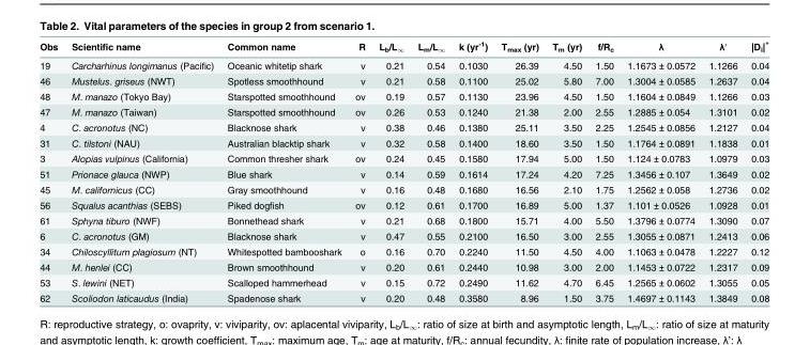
<table><thead><tr><td>Obs</td><td>Scientific name</td><td>Common name</td><td>R</td><td>L<sub>b</sub>/L<sub>∞</sub></td><td>L<sub>m</sub>/L<sub>∞</sub></td><td>k (yr<sup>-1</sup>)</td><td>T<sub>max</sub> (yr)</td><td>T<sub>m</sub> (yr)</td><td>f/R<sub>c</sub></td><td>λ</td><td>λ′</td><td>|D<sub>i</sub>|*</td></tr></thead><tbody><tr><td>19</td><td>Carcharhinus longimanus (Pacific)</td><td>Oceanic whitetip shark</td><td>v</td><td>0.21</td><td>0.54</td><td>0.1030</td><td>26.39</td><td>4.50</td><td>1.50</td><td>1.1673 ± 0.0572</td><td>1.1266</td><td>0.04</td></tr><tr><td>46</td><td>Mustelus. griseus (NWT)</td><td>Spotless smoothhound</td><td>v</td><td>0.21</td><td>0.58</td><td>0.1100</td><td>25.02</td><td>5.80</td><td>7.00</td><td>1.3004 ± 0.0585</td><td>1.2637</td><td>0.04</td></tr><tr><td>48</td><td>M. manazo (Tokyo Bay)</td><td>Starspotted smoothhound</td><td>ov</td><td>0.19</td><td>0.57</td><td>0.1130</td><td>23.96</td><td>4.50</td><td>1.50</td><td>1.1604 ± 0.0849</td><td>1.1266</td><td>0.03</td></tr><tr><td>47</td><td>M. manazo (Taiwan)</td><td>Starspotted smoothhound</td><td>ov</td><td>0.26</td><td>0.53</td><td>0.1240</td><td>21.38</td><td>2.00</td><td>2.55</td><td>1.2885 ± 0.054</td><td>1.3101</td><td>0.02</td></tr><tr><td>4</td><td>C. acronotus (NC)</td><td>Blacknose shark</td><td>v</td><td>0.38</td><td>0.46</td><td>0.1380</td><td>25.11</td><td>3.50</td><td>2.25</td><td>1.2545 ± 0.0856</td><td>1.2127</td><td>0.04</td></tr><tr><td>31</td><td>C. tilstoni (NAU)</td><td>Australian blacktip shark</td><td>v</td><td>0.32</td><td>0.58</td><td>0.1400</td><td>18.60</td><td>3.50</td><td>1.50</td><td>1.1764 ± 0.0891</td><td>1.1838</td><td>0.01</td></tr><tr><td>3</td><td>Alopias vulpinus (California)</td><td>Common thresher shark</td><td>ov</td><td>0.24</td><td>0.45</td><td>0.1580</td><td>17.94</td><td>5.00</td><td>1.50</td><td>1.124 ± 0.0783</td><td>1.0979</td><td>0.03</td></tr><tr><td>51</td><td>Prionace glauca (NWP)</td><td>Blue shark</td><td>v</td><td>0.14</td><td>0.59</td><td>0.1614</td><td>17.24</td><td>4.20</td><td>7.25</td><td>1.3456 ± 0.107</td><td>1.3649</td><td>0.02</td></tr><tr><td>45</td><td>M. californicus (CC)</td><td>Gray smoothhound</td><td>v</td><td>0.16</td><td>0.48</td><td>0.1680</td><td>16.56</td><td>2.10</td><td>1.75</td><td>1.2562 ± 0.058</td><td>1.2736</td><td>0.02</td></tr><tr><td>56</td><td>Squalus acanthias (SEBS)</td><td>Piked dogfish</td><td>ov</td><td>0.12</td><td>0.61</td><td>0.1700</td><td>16.89</td><td>5.00</td><td>1.37</td><td>1.101 ± 0.0526</td><td>1.0928</td><td>0.01</td></tr><tr><td>61</td><td>Sphyna tiburo (NWF)</td><td>Bonnethead shark</td><td>v</td><td>0.21</td><td>0.68</td><td>0.1800</td><td>15.71</td><td>4.00</td><td>5.50</td><td>1.3796 ± 0.0774</td><td>1.3090</td><td>0.07</td></tr><tr><td>6</td><td>C. acronotus (GM)</td><td>Blacknose shark</td><td>v</td><td>0.47</td><td>0.55</td><td>0.2100</td><td>16.50</td><td>3.00</td><td>2.55</td><td>1.3055 ± 0.0871</td><td>1.2413</td><td>0.06</td></tr><tr><td>34</td><td>Chiloscyllitum plagiosum (NT)</td><td>Whitespotted bambooshark</td><td>o</td><td>0.16</td><td>0.70</td><td>0.2240</td><td>11.50</td><td>4.50</td><td>4.00</td><td>1.1063 ± 0.0478</td><td>1.2227</td><td>0.12</td></tr><tr><td>44</td><td>M. henlei (CC)</td><td>Brown smoothhound</td><td>v</td><td>0.20</td><td>0.61</td><td>0.2440</td><td>10.98</td><td>3.00</td><td>2.00</td><td>1.1453 ± 0.0722</td><td>1.2317</td><td>0.09</td></tr><tr><td>53</td><td>S. lewini (NET)</td><td>Scalloped hammerhead</td><td>v</td><td>0.15</td><td>0.72</td><td>0.2490</td><td>11.62</td><td>4.70</td><td>6.45</td><td>1.2565 ± 0.0602</td><td>1.3055</td><td>0.05</td></tr><tr><td>62</td><td>Scoliodon laticaudus (India)</td><td>Spadenose shark</td><td>v</td><td>0.20</td><td>0.48</td><td>0.3580</td><td>8.96</td><td>1.50</td><td>3.75</td><td>1.4697 ± 0.1143</td><td>1.3849</td><td>0.08</td></tr></tbody></table>